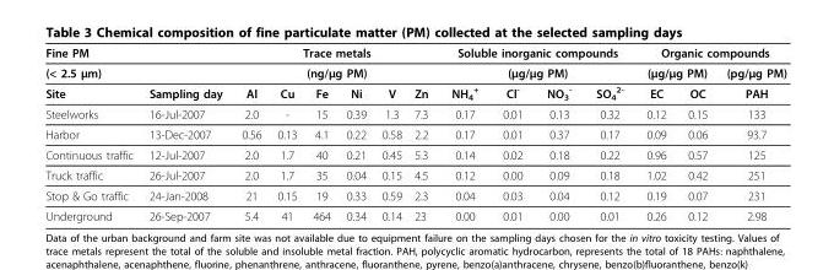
<table><thead><tr><td rowspan="3">Fine PM (&lt; 2.5 μm) Site</td><td rowspan="3">Sampling day</td><td rowspan="2" colspan="6">Trace metals (ng/μg PM)</td><td rowspan="2" colspan="4">Soluble inorganic compounds (μg/μg PM)</td><td colspan="3">Organic compounds</td></tr><tr><td colspan="2">(μg/μg PM)</td><td rowspan="2">(pg/μg PM) PAH</td></tr><tr><td>Al</td><td>Cu</td><td>Fe</td><td>Ni</td><td>V</td><td>Zn</td><td>NH<sub>4</sub> <sup>+</sup></td><td>Cl<sup>-</sup></td><td>NO<sub>3</sub> <sup>-</sup></td><td>SO<sub>4</sub> <sup>2-</sup></td><td>EC</td><td>OC</td></tr></thead><tbody><tr><td>Steelworks</td><td>16-Jul-2007</td><td>2.0</td><td>-</td><td>15</td><td>0.39</td><td>1.3</td><td>7.3</td><td>0.17</td><td>0.01</td><td>0.13</td><td>0.32</td><td>0.12</td><td>0.15</td><td>133</td></tr><tr><td>Harbor</td><td>13-Dec-2007</td><td>0.56</td><td>0.13</td><td>4.1</td><td>0.22</td><td>0.58</td><td>2.2</td><td>0.17</td><td>0.01</td><td>0.37</td><td>0.17</td><td>0.09</td><td>0.06</td><td>93.7</td></tr><tr><td>Continuous traffic</td><td>12-Jul-2007</td><td>2.0</td><td>1.7</td><td>40</td><td>0.21</td><td>0.45</td><td>5.3</td><td>0.14</td><td>0.02</td><td>0.18</td><td>0.22</td><td>0.96</td><td>0.57</td><td>125</td></tr><tr><td>Truck traffic</td><td>26-Jul-2007</td><td>2.0</td><td>1.7</td><td>35</td><td>0.04</td><td>0.15</td><td>4.5</td><td>0.12</td><td>0.00</td><td>0.09</td><td>0.18</td><td>1.02</td><td>0.42</td><td>251</td></tr><tr><td>Stop &amp; Go traffic</td><td>24-Jan-2008</td><td>21</td><td>0.15</td><td>19</td><td>0.33</td><td>0.59</td><td>2.3</td><td>0.04</td><td>0.03</td><td>0.04</td><td>0.12</td><td>0.19</td><td>0.07</td><td>231</td></tr><tr><td>Underground</td><td>26-Sep-2007</td><td>5.4</td><td>41</td><td>464</td><td>0.34</td><td>0.14</td><td>23</td><td>0.00</td><td>0.01</td><td>0.00</td><td>0.01</td><td>0.26</td><td>0.12</td><td>2.98</td></tr></tbody></table>